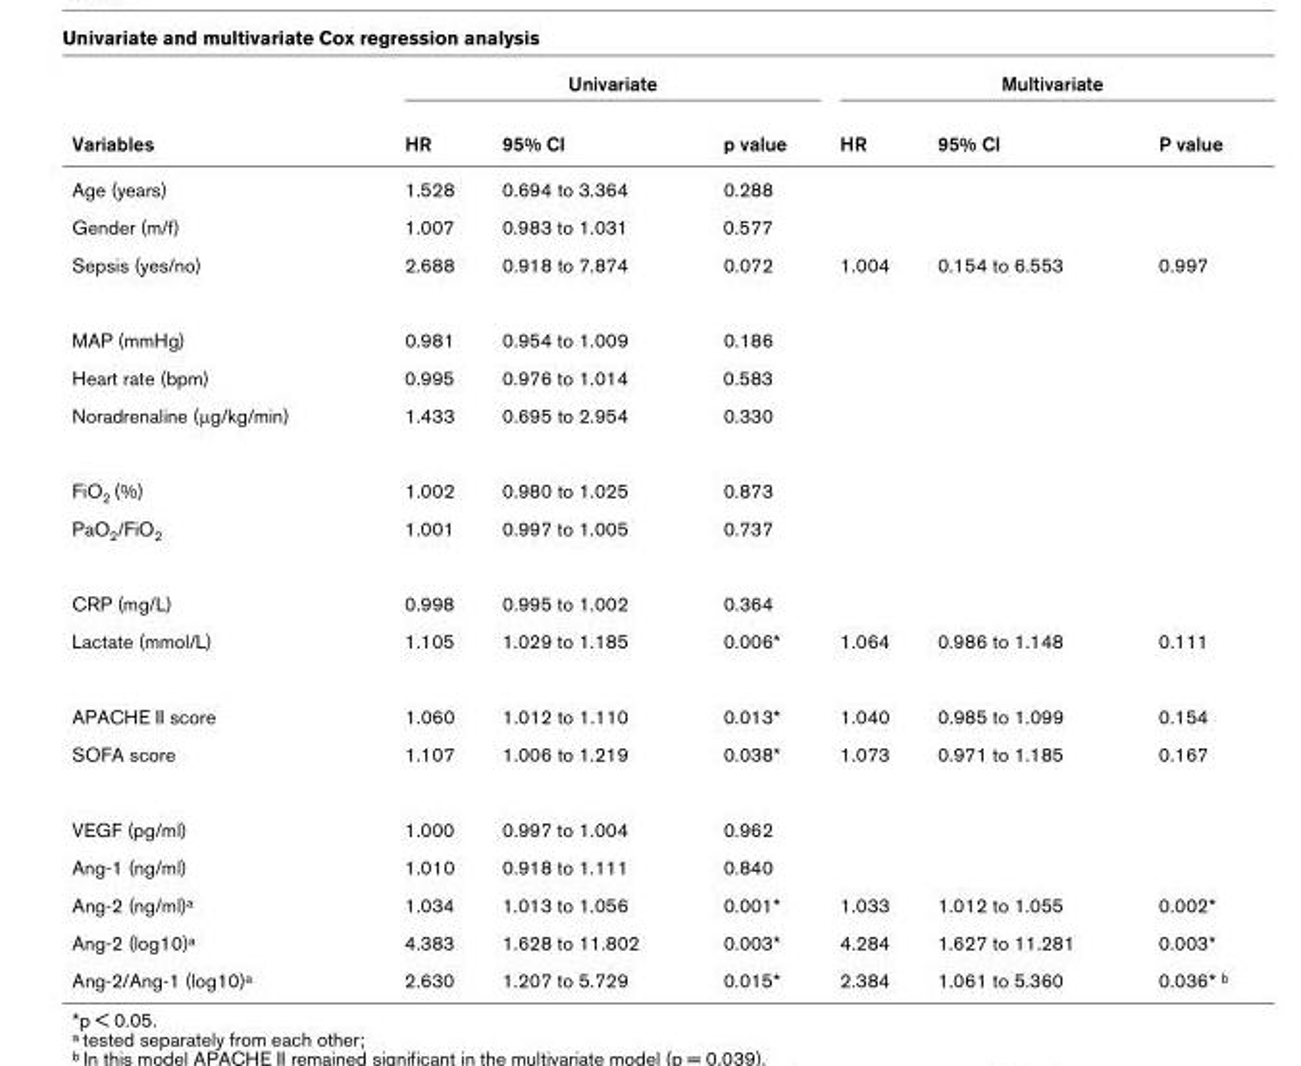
<table><thead><tr><td rowspan="2">Variables</td><td colspan="3">Univariate</td><td colspan="3">Multivariate</td></tr><tr><td>HR</td><td>95% CI</td><td>p value</td><td>HR</td><td>95% CI</td><td>P value</td></tr></thead><tbody><tr><td>Age (years)</td><td>1.528</td><td>0.694 to 3.364</td><td>0.288</td><td></td><td></td><td></td></tr><tr><td>Gender (m/f)</td><td>1.007</td><td>0.983 to 1.031</td><td>0.577</td><td></td><td></td><td></td></tr><tr><td>Sepsis (yes/no)</td><td>2.688</td><td>0.918 to 7.874</td><td>0.072</td><td>1.004</td><td>0.154 to 6.553</td><td>0.997</td></tr><tr><td>MAP (mmHg)</td><td>0.981</td><td>0.954 to 1.009</td><td>0.186</td><td></td><td></td><td></td></tr><tr><td>Heart rate (bpm)</td><td>0.995</td><td>0.976 to 1.014</td><td>0.583</td><td></td><td></td><td></td></tr><tr><td>Noradrenaline (μg/kg/min)</td><td>1.433</td><td>0.695 to 2.954</td><td>0.330</td><td></td><td></td><td></td></tr><tr><td>FiO<sub>2</sub> (%)</td><td>1.002</td><td>0.980 to 1.025</td><td>0.873</td><td></td><td></td><td></td></tr><tr><td>PaO<sub>2</sub>/FiO<sub>2</sub></td><td>1.001</td><td>0.997 to 1.005</td><td>0.737</td><td></td><td></td><td></td></tr><tr><td>CRP (mg/L)</td><td>0.998</td><td>0.995 to 1.002</td><td>0.364</td><td></td><td></td><td></td></tr><tr><td>Lactate (mmol/L)</td><td>1.105</td><td>1.029 to 1.185</td><td>0.006*</td><td>1.064</td><td>0.986 to 1.148</td><td>0.111</td></tr><tr><td>APACHE II score</td><td>1.060</td><td>1.012 to 1.110</td><td>0.013*</td><td>1.040</td><td>0.985 to 1.099</td><td>0.154</td></tr><tr><td>SOFA score</td><td>1.107</td><td>1.006 to 1.219</td><td>0.038*</td><td>1.073</td><td>0.971 to 1.185</td><td>0.167</td></tr><tr><td>VEGF (pg/ml)</td><td>1.000</td><td>0.997 to 1.004</td><td>0.962</td><td></td><td></td><td></td></tr><tr><td>Ang-1 (ng/ml)</td><td>1.010</td><td>0.918 to 1.111</td><td>0.840</td><td></td><td></td><td></td></tr><tr><td>Ang-2 (ng/ml)<sup>a</sup></td><td>1.034</td><td>1.013 to 1.056</td><td>0.001*</td><td>1.033</td><td>1.012 to 1.055</td><td>0.002*</td></tr><tr><td>Ang-2 (log10)<sup>a</sup></td><td>4.383</td><td>1.628 to 11.802</td><td>0.003*</td><td>4.284</td><td>1.627 to 11.281</td><td>0.003*</td></tr><tr><td>Ang-2/Ang-1 (log10)<sup>a</sup></td><td>2.630</td><td>1.207 to 5.729</td><td>0.015*</td><td>2.384</td><td>1.061 to 5.360</td><td>0.036* <sup>b</sup></td></tr></tbody></table>